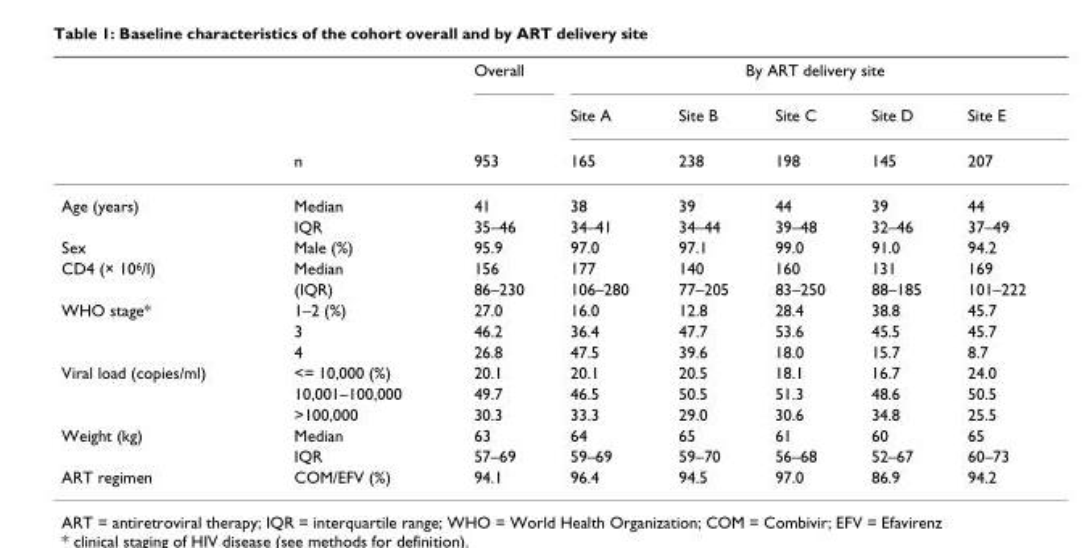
<table><thead><tr><td rowspan="3"></td><td rowspan="3">n</td><td rowspan="3">Overall 953</td><td colspan="5">By ART delivery site</td></tr><tr><td rowspan="2">Site A 165</td><td rowspan="2">Site B 238</td><td rowspan="2">Site C 198</td><td rowspan="2">Site D 145</td><td rowspan="2">Site E 207</td></tr><tr></tr></thead><tbody><tr><td rowspan="2">Age (years)</td><td>Median</td><td>41</td><td>38</td><td>39</td><td>44</td><td>39</td><td>44</td></tr><tr><td>IQR</td><td>35–46</td><td>34–41</td><td>34–44</td><td>39–48</td><td>32–46</td><td>37–49</td></tr><tr><td>Sex</td><td>Male (%)</td><td>95.9</td><td>97.0</td><td>97.1</td><td>99.0</td><td>91.0</td><td>94.2</td></tr><tr><td rowspan="2">CD4 (× 10<sup>6</sup>/l)</td><td>Median</td><td>156</td><td>177</td><td>140</td><td>160</td><td>131</td><td>169</td></tr><tr><td>(IQR)</td><td>86–230</td><td>106–280</td><td>77–205</td><td>83–250</td><td>88–185</td><td>101–222</td></tr><tr><td rowspan="3">WHO stage*</td><td>1–2 (%)</td><td>27.0</td><td>16.0</td><td>12.8</td><td>28.4</td><td>38.8</td><td>45.7</td></tr><tr><td>3</td><td>46.2</td><td>36.4</td><td>47.7</td><td>53.6</td><td>45.5</td><td>45.7</td></tr><tr><td>4</td><td>26.8</td><td>47.5</td><td>39.6</td><td>18.0</td><td>15.7</td><td>8.7</td></tr><tr><td rowspan="3">Viral load (copies/ml)</td><td>&lt;= 10,000 (%)</td><td>20.1</td><td>20.1</td><td>20.5</td><td>18.1</td><td>16.7</td><td>24.0</td></tr><tr><td>10,001–100,000</td><td>49.7</td><td>46.5</td><td>50.5</td><td>51.3</td><td>48.6</td><td>50.5</td></tr><tr><td>&gt;100,000</td><td>30.3</td><td>33.3</td><td>29.0</td><td>30.6</td><td>34.8</td><td>25.5</td></tr><tr><td rowspan="2">Weight (kg)</td><td>Median</td><td>63</td><td>64</td><td>65</td><td>61</td><td>60</td><td>65</td></tr><tr><td>IQR</td><td>57–69</td><td>59–69</td><td>59–70</td><td>56–68</td><td>52–67</td><td>60–73</td></tr><tr><td>ART regimen</td><td>COM/EFV (%)</td><td>94.1</td><td>96.4</td><td>94.5</td><td>97.0</td><td>86.9</td><td>94.2</td></tr></tbody></table>